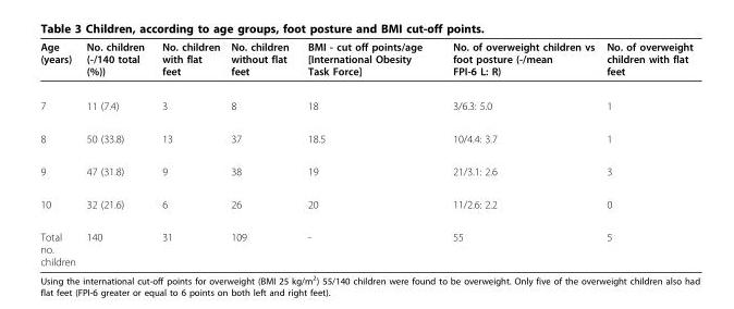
<table><thead><tr><td>Age (years)</td><td>No. children (-/140 total (%))</td><td>No. children with flat feet</td><td>No. children without flat feet</td><td>BMI - cut off points/age [International Obesity Task Force]</td><td>No. of overweight children vs foot posture (-/mean FPI-6 L: R)</td><td>No. of overweight children with flat feet</td></tr></thead><tbody><tr><td>7</td><td>11 (7.4)</td><td>3</td><td>8</td><td>18</td><td>3/6.3: 5.0</td><td>1</td></tr><tr><td>8</td><td>50 (33.8)</td><td>13</td><td>37</td><td>18.5</td><td>10/4.4: 3.7</td><td>1</td></tr><tr><td>9</td><td>47 (31.8)</td><td>9</td><td>38</td><td>19</td><td>21/3.1: 2.6</td><td>3</td></tr><tr><td>10</td><td>32 (21.6)</td><td>6</td><td>26</td><td>20</td><td>11/2.6: 2.2</td><td>0</td></tr><tr><td>Total no. children</td><td>140</td><td>31</td><td>109</td><td>-</td><td>55</td><td>5</td></tr></tbody></table>